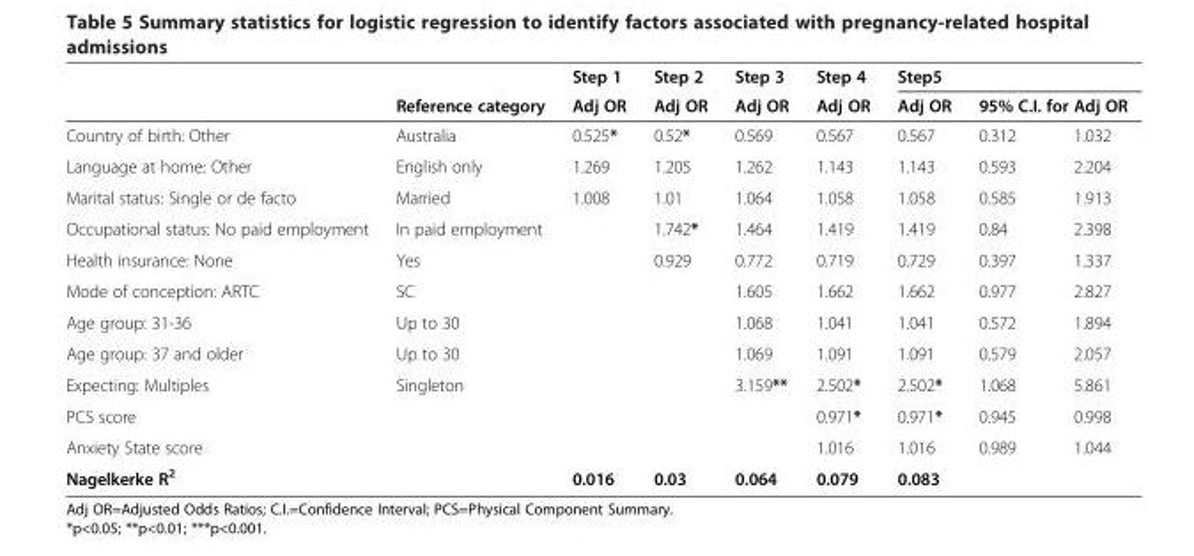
<table><thead><tr><td rowspan="3">Country of birth: Other</td><td rowspan="3">Reference category Australia</td><td rowspan="3">Step 1 Adj OR 0.525*</td><td rowspan="3">Step 2 Adj OR 0.52*</td><td rowspan="3">Step 3 Adj OR 0.569</td><td rowspan="3">Step 4 Adj OR 0.567</td><td colspan="3">Step5</td></tr><tr><td rowspan="2">Adj OR 0.567</td><td colspan="2">95% C.I. for Adj OR</td></tr><tr><td>0.312</td><td>1.032</td></tr></thead><tbody><tr><td>Language at home: Other</td><td>English only</td><td>1.269</td><td>1.205</td><td>1.262</td><td>1.143</td><td>1.143</td><td>0.593</td><td>2.204</td></tr><tr><td>Marital status: Single or de facto</td><td>Married</td><td>1.008</td><td>1.01</td><td>1.064</td><td>1.058</td><td>1.058</td><td>0.585</td><td>1.913</td></tr><tr><td>Occupational status: No paid employment</td><td>In paid employment</td><td></td><td>1.742*</td><td>1.464</td><td>1.419</td><td>1.419</td><td>0.84</td><td>2.398</td></tr><tr><td>Health insurance: None</td><td>Yes</td><td></td><td>0.929</td><td>0.772</td><td>0.719</td><td>0.729</td><td>0.397</td><td>1.337</td></tr><tr><td>Mode of conception: ARTC</td><td>SC</td><td></td><td></td><td>1.605</td><td>1.662</td><td>1.662</td><td>0.977</td><td>2.827</td></tr><tr><td>Age group: 31-36</td><td>Up to 30</td><td></td><td></td><td>1.068</td><td>1.041</td><td>1.041</td><td>0.572</td><td>1.894</td></tr><tr><td>Age group: 37 and older</td><td>Up to 30</td><td></td><td></td><td>1.069</td><td>1.091</td><td>1.091</td><td>0.579</td><td>2.057</td></tr><tr><td>Expecting: Multiples</td><td>Singleton</td><td></td><td></td><td>3.159**</td><td>2.502*</td><td>2.502*</td><td>1.068</td><td>5.861</td></tr><tr><td>PCS score</td><td></td><td></td><td></td><td></td><td>0.971*</td><td>0.971*</td><td>0.945</td><td>0.998</td></tr><tr><td>Anxiety State score</td><td></td><td></td><td></td><td></td><td>1.016</td><td>1.016</td><td>0.989</td><td>1.044</td></tr><tr><td>Nagelkerke R<sup>2</sup></td><td></td><td>0.016</td><td>0.03</td><td>0.064</td><td>0.079</td><td colspan="3">0.083</td></tr></tbody></table>